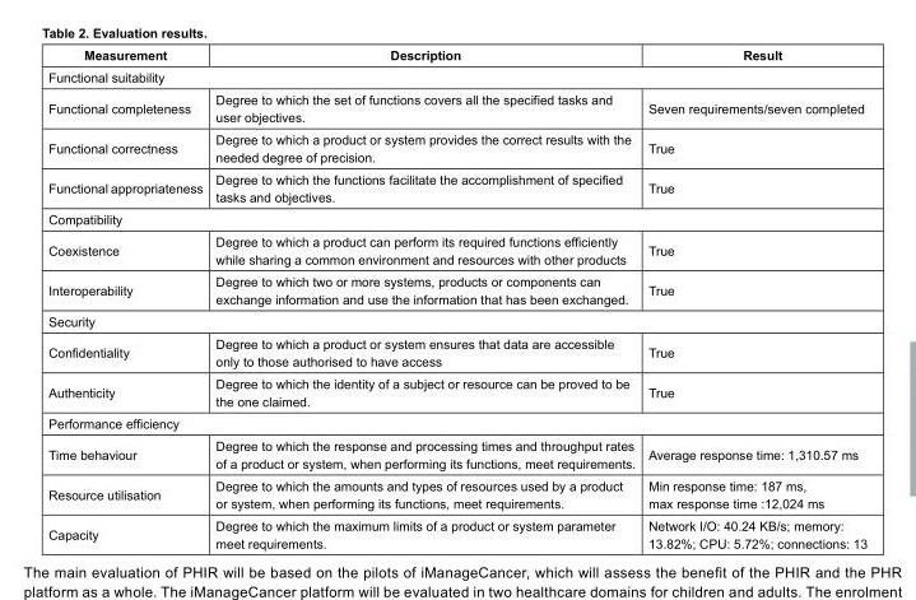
<table><thead><tr><td>Measurement</td><td>Description</td><td>Result</td></tr></thead><tbody><tr><td colspan="3">Functional suitability</td></tr><tr><td>Functional completeness</td><td>Degree to which the set of functions covers all the specified tasks and user objectives.</td><td>Seven requirements/seven completed</td></tr><tr><td>Functional correctness</td><td>Degree to which a product or system provides the correct results with the needed degree of precision.</td><td>True</td></tr><tr><td>Functional appropriateness</td><td>Degree to which the functions facilitate the accomplishment of specified tasks and objectives.</td><td>True</td></tr><tr><td colspan="3">Compatibility</td></tr><tr><td>Coexistence</td><td>Degree to which a product can perform its required functions efficiently while sharing a common environment and resources with other products</td><td>True</td></tr><tr><td>Interoperability</td><td>Degree to which two or more systems, products or components can exchange information and use the information that has been exchanged.</td><td>True</td></tr><tr><td colspan="3">Security</td></tr><tr><td>Confidentiality</td><td>Degree to which a product or system ensures that data are accessible only to those authorised to have access</td><td>True</td></tr><tr><td>Authenticity</td><td>Degree to which the identity of a subject or resource can be proved to be the one claimed.</td><td>True</td></tr><tr><td colspan="3">Performance efficiency</td></tr><tr><td>Time behaviour</td><td>Degree to which the response and processing times and throughput rates of a product or system, when performing its functions, meet requirements.</td><td>Average response time: 1,310.57 ms</td></tr><tr><td>Resource utilisation</td><td>Degree to which the amounts and types of resources used by a product or system, when performing its functions, meet requirements.</td><td>Min response time: 187 ms, max response time :12,024 ms</td></tr><tr><td>Capacity</td><td>Degree to which the maximum limits of a product or system parameter meet requirements.</td><td>Network I/O: 40.24 KB/s; memory: 13.82%; CPU: 5.72%; connections: 13</td></tr></tbody></table>